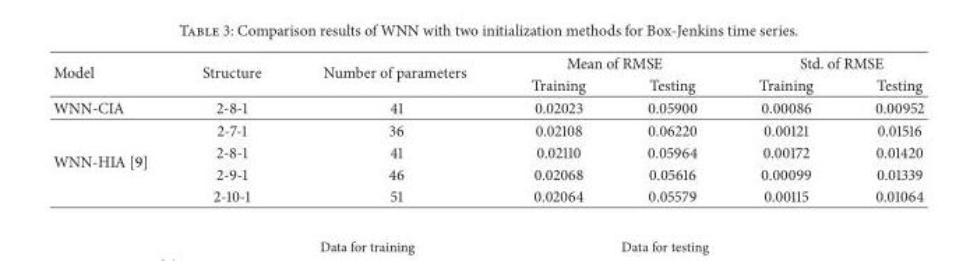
<table><thead><tr><td rowspan="2">Model</td><td rowspan="2">Structure</td><td rowspan="2">Number of parameters</td><td colspan="2">Mean of RMSE</td><td colspan="2">Std. of RMSE</td></tr><tr><td>Training</td><td>Testing</td><td>Training</td><td>Testing</td></tr></thead><tbody><tr><td>WNN-CIA</td><td>2-8-1</td><td>41</td><td>0.02023</td><td>0.05900</td><td>0.00086</td><td>0.00952</td></tr><tr><td rowspan="4">WNN-HIA [9]</td><td>2-7-1</td><td>36</td><td>0.02108</td><td>0.06220</td><td>0.00121</td><td>0.01516</td></tr><tr><td>2-8-1</td><td>41</td><td>0.02110</td><td>0.05964</td><td>0.00172</td><td>0.01420</td></tr><tr><td>2-9-1</td><td>46</td><td>0.02068</td><td>0.05616</td><td>0.00099</td><td>0.01339</td></tr><tr><td>2-10-1</td><td>51</td><td>0.02064</td><td>0.05579</td><td>0.00115</td><td>0.01064</td></tr></tbody></table>